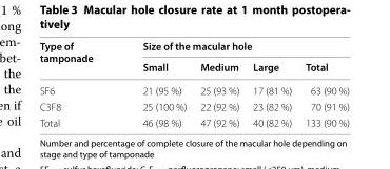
<table><thead><tr><td rowspan="2">Type of tamponade</td><td colspan="4">Size of the macular hole</td></tr><tr><td>Small</td><td>Medium</td><td>Large</td><td>Total</td></tr></thead><tbody><tr><td>SF6</td><td>21 (95 %)</td><td>25 (93 %)</td><td>17 (81 %)</td><td>63 (90 %)</td></tr><tr><td>C3F8</td><td>25 (100 %)</td><td>22 (92 %)</td><td>23 (82 %)</td><td>70 (91 %)</td></tr><tr><td>Total</td><td>46 (98 %)</td><td>47 (92 %)</td><td>40 (82 %)</td><td>133 (90 %)</td></tr></tbody></table>